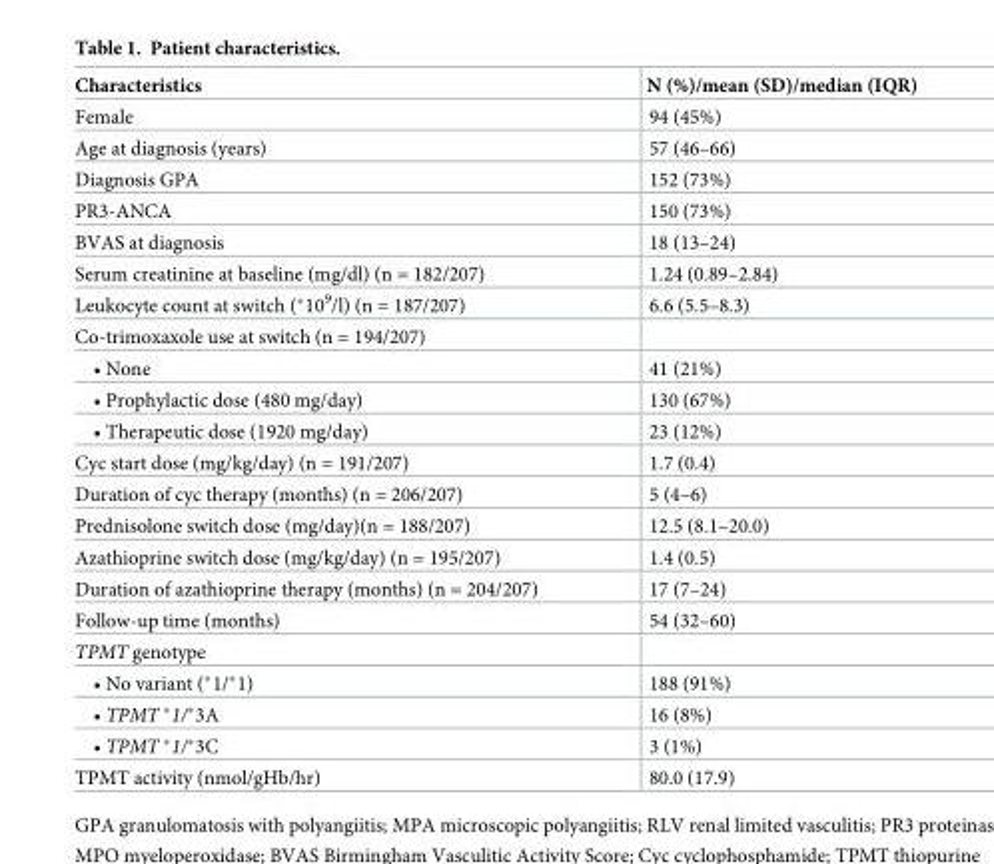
<table><thead><tr><td>Characteristics</td><td>N (%)/mean (SD)/median (IQR)</td></tr></thead><tbody><tr><td>Female</td><td>94 (45%)</td></tr><tr><td>Age at diagnosis (years)</td><td>57 (46–66)</td></tr><tr><td>Diagnosis GPA</td><td>152 (73%)</td></tr><tr><td>PR3-ANCA</td><td>150 (73%)</td></tr><tr><td>BVAS at diagnosis</td><td>18 (13–24)</td></tr><tr><td>Serum creatinine at baseline (mg/dl) (n = 182/207)</td><td>1.24 (0.89–2.84)</td></tr><tr><td>Leukocyte count at switch (*10<sup>9</sup>/l) (n = 187/207)</td><td>6.6 (5.5–8.3)</td></tr><tr><td colspan="2">Co-trimoxaxole use at switch (n = 194/207)</td></tr><tr><td>• None</td><td>41 (21%)</td></tr><tr><td>• Prophylactic dose (480 mg/day)</td><td>130 (67%)</td></tr><tr><td>• Therapeutic dose (1920 mg/day)</td><td>23 (12%)</td></tr><tr><td>Cyc start dose (mg/kg/day) (n = 191/207)</td><td>1.7 (0.4)</td></tr><tr><td>Duration of cyc therapy (months) (n = 206/207)</td><td>5 (4–6)</td></tr><tr><td>Prednisolone switch dose (mg/day)(n = 188/207)</td><td>12.5 (8.1–20.0)</td></tr><tr><td>Azathioprine switch dose (mg/kg/day) (n = 195/207)</td><td>1.4 (0.5)</td></tr><tr><td>Duration of azathioprine therapy (months) (n = 204/207)</td><td>17 (7–24)</td></tr><tr><td>Follow-up time (months)</td><td>54 (32–60)</td></tr><tr><td colspan="2">TPMT genotype</td></tr><tr><td>• No variant (*1/*1)</td><td>188 (91%)</td></tr><tr><td>• TPMT *1/*3A</td><td>16 (8%)</td></tr><tr><td>• TPMT *1/*3C</td><td>3 (1%)</td></tr><tr><td>TPMT activity (nmol/gHb/hr)</td><td>80.0 (17.9)</td></tr></tbody></table>